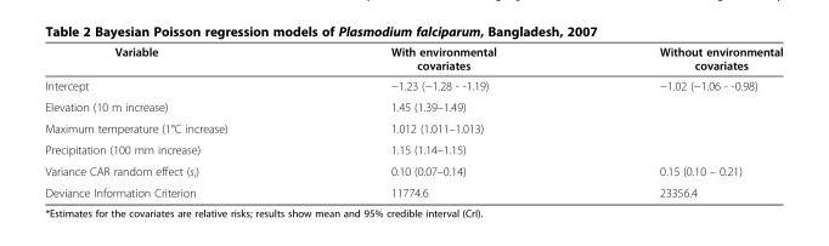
<table><thead><tr><td>Variable</td><td>With environmental covariates</td><td>Without environmental covariates</td></tr></thead><tbody><tr><td>Intercept</td><td>−1.23 (−1.28 - -1.19)</td><td>−1.02 (−1.06 - -0.98)</td></tr><tr><td>Elevation (10 m increase)</td><td>1.45 (1.39–1.49)</td><td></td></tr><tr><td>Maximum temperature (1°C increase)</td><td>1.012 (1.011–1.013)</td><td></td></tr><tr><td>Precipitation (100 mm increase)</td><td>1.15 (1.14–1.15)</td><td></td></tr><tr><td>Variance CAR random effect (s<sub>i</sub>)</td><td>0.10 (0.07–0.14)</td><td>0.15 (0.10 – 0.21)</td></tr><tr><td>Deviance Information Criterion</td><td>11774.6</td><td>23356.4</td></tr></tbody></table>